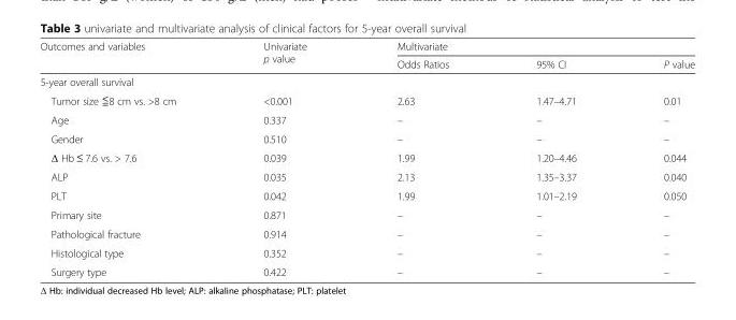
<table><thead><tr><td rowspan="2">Outcomes and variables</td><td rowspan="2">Univariate p value</td><td colspan="3">Multivariate</td></tr><tr><td>Odds Ratios</td><td>95% CI</td><td>P value</td></tr></thead><tbody><tr><td colspan="5">5-year overall survival</td></tr><tr><td>Tumor size ≦8 cm vs. &gt;8 cm</td><td>&lt;0.001</td><td>2.63</td><td>1.47–4.71</td><td>0.01</td></tr><tr><td>Age</td><td>0.337</td><td>–</td><td>–</td><td>–</td></tr><tr><td>Gender</td><td>0.510</td><td>–</td><td>–</td><td>–</td></tr><tr><td>Δ Hb ≤ 7.6 vs. &gt; 7.6</td><td>0.039</td><td>1.99</td><td>1.20–4.46</td><td>0.044</td></tr><tr><td>ALP</td><td>0.035</td><td>2.13</td><td>1.35–3.37</td><td>0.040</td></tr><tr><td>PLT</td><td>0.042</td><td>1.99</td><td>1.01–2.19</td><td>0.050</td></tr><tr><td>Primary site</td><td>0.871</td><td>–</td><td>–</td><td>–</td></tr><tr><td>Pathological fracture</td><td>0.914</td><td>–</td><td>–</td><td>–</td></tr><tr><td>Histological type</td><td>0.352</td><td>–</td><td>–</td><td>–</td></tr><tr><td>Surgery type</td><td>0.422</td><td>–</td><td>–</td><td>–</td></tr></tbody></table>